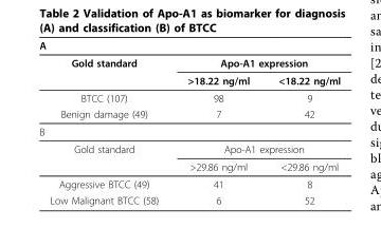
<table><thead><tr><td colspan="3">A</td></tr><tr><td rowspan="2">Gold standard</td><td colspan="2">Apo-A1 expression</td></tr><tr><td>&gt;18.22 ng/ml</td><td>&lt;18.22 ng/ml</td></tr></thead><tbody><tr><td>BTCC (107)</td><td>98</td><td>9</td></tr><tr><td>Benign damage (49)</td><td>7</td><td>42</td></tr><tr><td colspan="3">B</td></tr><tr><td rowspan="2">Gold standard</td><td colspan="2">Apo-A1 expression</td></tr><tr><td>&gt;29.86 ng/ml</td><td>&lt;29.86 ng/ml</td></tr><tr><td>Aggressive BTCC (49)</td><td>41</td><td>8</td></tr><tr><td>Low Malignant BTCC (58)</td><td>6</td><td>52</td></tr></tbody></table>